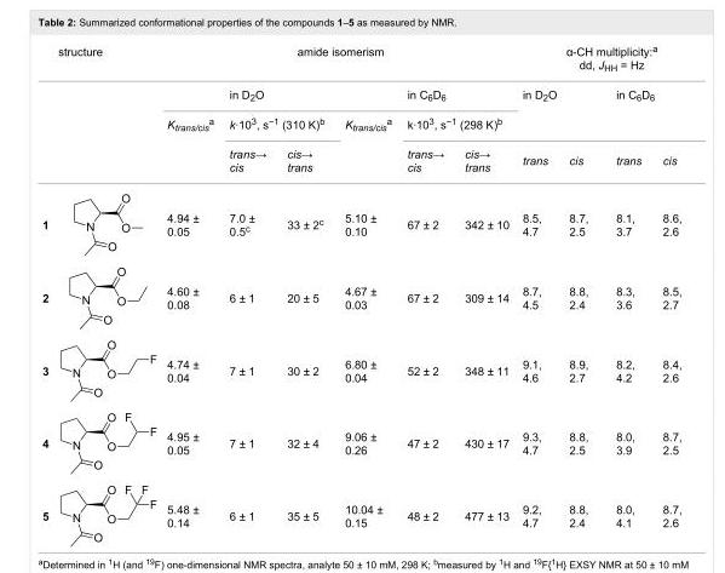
<table><thead><tr><td rowspan="3"></td><td rowspan="3">structure</td><td colspan="6">amide isomerism</td><td colspan="4">α-CH multiplicity:<sup>a</sup> dd, J<sub>HH</sub> = Hz</td></tr><tr><td rowspan="2">K<sub>trans/cis</sub><sup>a</sup></td><td>in D<sub>2</sub>O</td><td></td><td rowspan="2">K<sub>trans/cis</sub><sup>a</sup></td><td>in C<sub>6</sub>D<sub>6</sub></td><td></td><td colspan="2">in D<sub>2</sub>O</td><td colspan="2">in C<sub>6</sub>D<sub>6</sub></td></tr><tr><td colspan="2">k∙10<sup>3</sup>, s<sup>−1</sup> (310 K)<sup>b</sup></td><td colspan="2">k∙10<sup>3</sup>, s<sup>−1</sup> (298 K)<sup>b</sup></td><td></td><td></td><td></td><td></td></tr></thead><tbody><tr><td></td><td></td><td></td><td>trans→ cis</td><td>cis→ trans</td><td></td><td>trans→ cis</td><td>cis→ trans</td><td>trans</td><td>cis</td><td>trans</td><td>cis</td></tr><tr><td>1</td><td></td><td>4.94 ± 0.05</td><td>7.0 ± 0.5<sup>c</sup></td><td>33 ± 2<sup>c</sup></td><td>5.10 ± 0.10</td><td>67 ± 2</td><td>342 ± 10</td><td>8.5, 4.7</td><td>8.7, 2.5</td><td>8.1, 3.7</td><td>8.6, 2.6</td></tr><tr><td>2</td><td></td><td>4.60 ± 0.08</td><td>6 ± 1</td><td>20 ± 5</td><td>4.67 ± 0.03</td><td>67 ± 2</td><td>309 ± 14</td><td>8.7, 4.5</td><td>8.8, 2.4</td><td>8.3, 3.6</td><td>8.5, 2.7</td></tr><tr><td>3</td><td></td><td>4.74 ± 0.04</td><td>7 ± 1</td><td>30 ± 2</td><td>6.80 ± 0.04</td><td>52 ± 2</td><td>348 ± 11</td><td>9.1, 4.6</td><td>8.9, 2.7</td><td>8.2, 4.2</td><td>8.4, 2.6</td></tr><tr><td>4</td><td></td><td>4.95 ± 0.05</td><td>7 ± 1</td><td>32 ± 4</td><td>9.06 ± 0.26</td><td>47 ± 2</td><td>430 ± 17</td><td>9.3, 4.7</td><td>8.8, 2.5</td><td>8.0, 3.9</td><td>8.7, 2.5</td></tr><tr><td>5</td><td></td><td>5.48 ± 0.14</td><td>6 ± 1</td><td>35 ± 5</td><td>10.04 ± 0.15</td><td>48 ± 2</td><td>477 ± 13</td><td>9.2, 4.7</td><td>8.8, 2.4</td><td>8.0, 4.1</td><td>8.7, 2.6</td></tr></tbody></table>